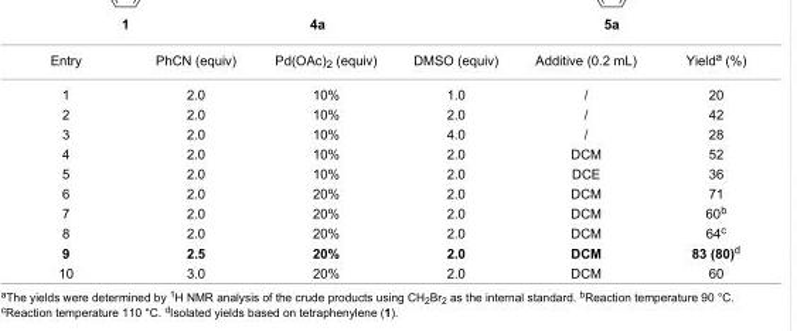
<table><tbody><tr><td>Entry</td><td>PhCN (equiv)</td><td>Pd(OAc)<sub>2</sub> (equiv)</td><td>DMSO (equiv)</td><td>Additive (0.2 mL)</td><td>Yield<sup>a</sup> (%)</td></tr><tr><td>1</td><td>2.0</td><td>10%</td><td>1.0</td><td>/</td><td>20</td></tr><tr><td>2</td><td>2.0</td><td>10%</td><td>2.0</td><td>/</td><td>42</td></tr><tr><td>3</td><td>2.0</td><td>10%</td><td>4.0</td><td>/</td><td>28</td></tr><tr><td>4</td><td>2.0</td><td>10%</td><td>2.0</td><td>DCM</td><td>52</td></tr><tr><td>5</td><td>2.0</td><td>10%</td><td>2.0</td><td>DCE</td><td>36</td></tr><tr><td>6</td><td>2.0</td><td>20%</td><td>2.0</td><td>DCM</td><td>71</td></tr><tr><td>7</td><td>2.0</td><td>20%</td><td>2.0</td><td>DCM</td><td>60<sup>b</sup></td></tr><tr><td>8</td><td>2.0</td><td>20%</td><td>2.0</td><td>DCM</td><td>64<sup>c</sup></td></tr><tr><td>9</td><td>2.5</td><td>20%</td><td>2.0</td><td>DCM</td><td>83 (80)<sup>d</sup></td></tr><tr><td>10</td><td>3.0</td><td>20%</td><td>2.0</td><td>DCM</td><td>60</td></tr></tbody></table>